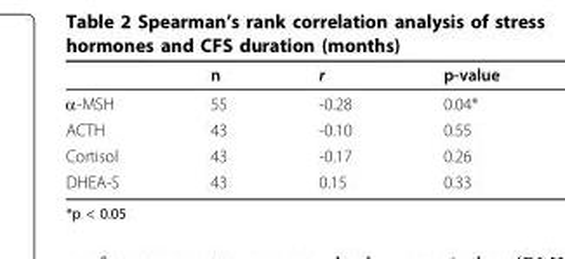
<table><thead><tr><td></td><td>n</td><td>r</td><td>p-value</td></tr></thead><tbody><tr><td>α-MSH</td><td>55</td><td>-0.28</td><td>0.04*</td></tr><tr><td>ACTH</td><td>43</td><td>-0.10</td><td>0.55</td></tr><tr><td>Cortisol</td><td>43</td><td>-0.17</td><td>0.26</td></tr><tr><td>DHEA-S</td><td>43</td><td>0.15</td><td>0.33</td></tr></tbody></table>